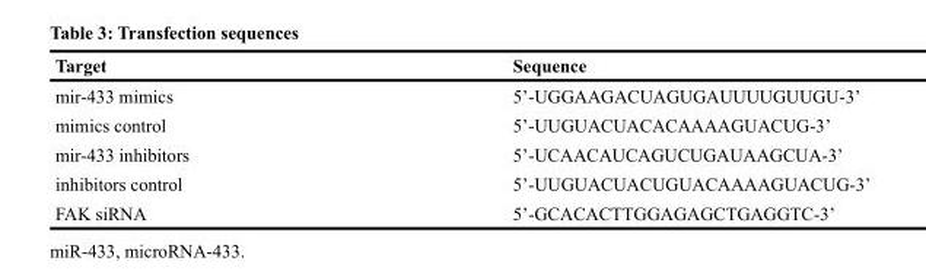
<table><thead><tr><td>Target</td><td>Sequence</td></tr></thead><tbody><tr><td>mir-433 mimics</td><td>5’-UGGAAGACUAGUGAUUUUGUUGU-3’</td></tr><tr><td>mimics control</td><td>5’-UUGUACUACACAAAAGUACUG-3’</td></tr><tr><td>mir-433 inhibitors</td><td>5’-UCAACAUCAGUCUGAUAAGCUA-3’</td></tr><tr><td>inhibitors control</td><td>5’-UUGUACUACUGUACAAAAGUACUG-3’</td></tr><tr><td>FAK siRNA</td><td>5’-GCACACTTGGAGAGCTGAGGTC-3’</td></tr></tbody></table>